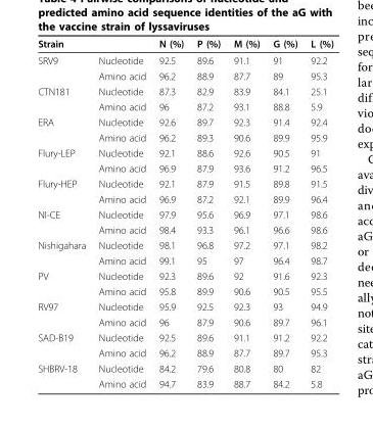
<table><thead><tr><td>Strain</td><td></td><td>N (%)</td><td>P (%)</td><td>M (%)</td><td>G (%)</td><td>L (%)</td></tr></thead><tbody><tr><td rowspan="2">SRV9</td><td>Nucleotide</td><td>92.5</td><td>89.6</td><td>91.1</td><td>91</td><td>92.2</td></tr><tr><td>Amino acid</td><td>96.2</td><td>88.9</td><td>87.7</td><td>89</td><td>95.3</td></tr><tr><td rowspan="2">CTN181</td><td>Nucleotide</td><td>87.3</td><td>82.9</td><td>83.9</td><td>84.1</td><td>25.1</td></tr><tr><td>Amino acid</td><td>96</td><td>87.2</td><td>93.1</td><td>88.8</td><td>5.9</td></tr><tr><td rowspan="2">ERA</td><td>Nucleotide</td><td>92.6</td><td>89.7</td><td>92.3</td><td>91.4</td><td>92.4</td></tr><tr><td>Amino acid</td><td>96.2</td><td>89.3</td><td>90.6</td><td>89.9</td><td>95.9</td></tr><tr><td rowspan="2">Flury-LEP</td><td>Nucleotide</td><td>92.1</td><td>88.6</td><td>92.6</td><td>90.5</td><td>91</td></tr><tr><td>Amino acid</td><td>96.9</td><td>87.9</td><td>93.6</td><td>91.2</td><td>96.5</td></tr><tr><td rowspan="2">Flury-HEP</td><td>Nucleotide</td><td>92.1</td><td>87.9</td><td>91.5</td><td>89.8</td><td>91.5</td></tr><tr><td>Amino acid</td><td>96.9</td><td>87.2</td><td>92.1</td><td>89.9</td><td>96.4</td></tr><tr><td rowspan="2">NI-CE</td><td>Nucleotide</td><td>97.9</td><td>95.6</td><td>96.9</td><td>97.1</td><td>98.6</td></tr><tr><td>Amino acid</td><td>98.4</td><td>93.3</td><td>96.1</td><td>96.6</td><td>98.6</td></tr><tr><td rowspan="2">Nishigahara</td><td>Nucleotide</td><td>98.1</td><td>96.8</td><td>97.2</td><td>97.1</td><td>98.2</td></tr><tr><td>Amino acid</td><td>99.1</td><td>95</td><td>97</td><td>96.4</td><td>98.7</td></tr><tr><td rowspan="2">PV</td><td>Nucleotide</td><td>92.3</td><td>89.6</td><td>92</td><td>91.6</td><td>92.3</td></tr><tr><td>Amino acid</td><td>95.8</td><td>89.9</td><td>90.6</td><td>90.5</td><td>95.5</td></tr><tr><td rowspan="2">RV97</td><td>Nucleotide</td><td>95.9</td><td>92.5</td><td>92.3</td><td>93</td><td>94.9</td></tr><tr><td>Amino acid</td><td>96</td><td>87.9</td><td>90.6</td><td>89.7</td><td>96.1</td></tr><tr><td rowspan="2">SAD-B19</td><td>Nucleotide</td><td>92.5</td><td>89.6</td><td>91.1</td><td>91.2</td><td>92.2</td></tr><tr><td>Amino acid</td><td>96.2</td><td>88.9</td><td>87.7</td><td>89.7</td><td>95.3</td></tr><tr><td rowspan="2">SHBRV-18</td><td>Nucleotide</td><td>84.2</td><td>79.6</td><td>80.8</td><td>80</td><td>82</td></tr><tr><td>Amino acid</td><td>94.7</td><td>83.9</td><td>88.7</td><td>84.2</td><td>5.8</td></tr></tbody></table>